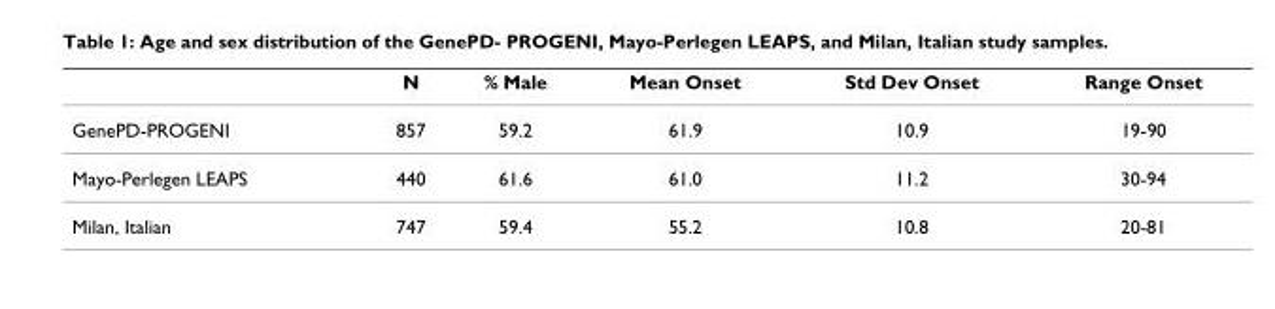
<table><thead><tr><td></td><td>N</td><td>% Male</td><td>Mean Onset</td><td>Std Dev Onset</td><td>Range Onset</td></tr></thead><tbody><tr><td>GenePD-PROGENI</td><td>857</td><td>59.2</td><td>61.9</td><td>10.9</td><td>19-90</td></tr><tr><td>Mayo-Perlegen LEAPS</td><td>440</td><td>61.6</td><td>61.0</td><td>11.2</td><td>30-94</td></tr><tr><td>Milan, Italian</td><td>747</td><td>59.4</td><td>55.2</td><td>10.8</td><td>20-81</td></tr></tbody></table>